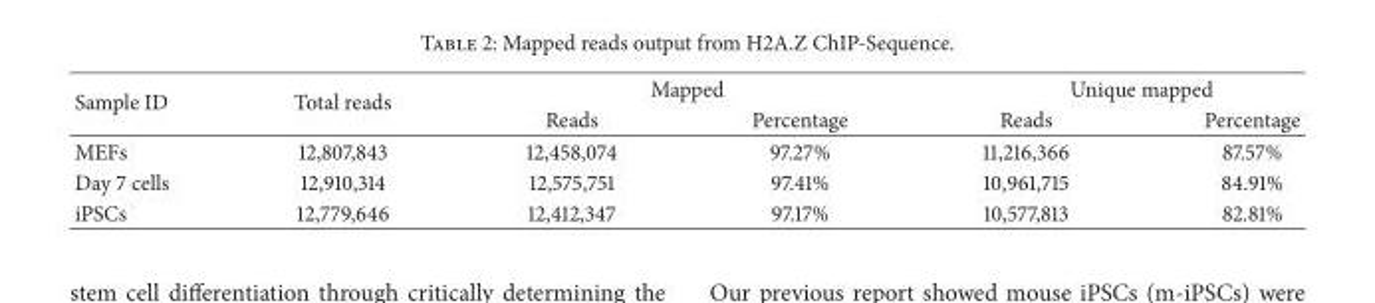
<table><thead><tr><td rowspan="2">Sample ID</td><td rowspan="2">Total reads</td><td colspan="2">Mapped</td><td colspan="2">Unique mapped</td></tr><tr><td>Reads</td><td>Percentage</td><td>Reads</td><td>Percentage</td></tr></thead><tbody><tr><td>MEFs</td><td>12,807,843</td><td>12,458,074</td><td>97.27%</td><td>11,216,366</td><td>87.57%</td></tr><tr><td>Day 7 cells</td><td>12,910,314</td><td>12,575,751</td><td>97.41%</td><td>10,961,715</td><td>84.91%</td></tr><tr><td>iPSCs</td><td>12,779,646</td><td>12,412,347</td><td>97.17%</td><td>10,577,813</td><td>82.81%</td></tr></tbody></table>